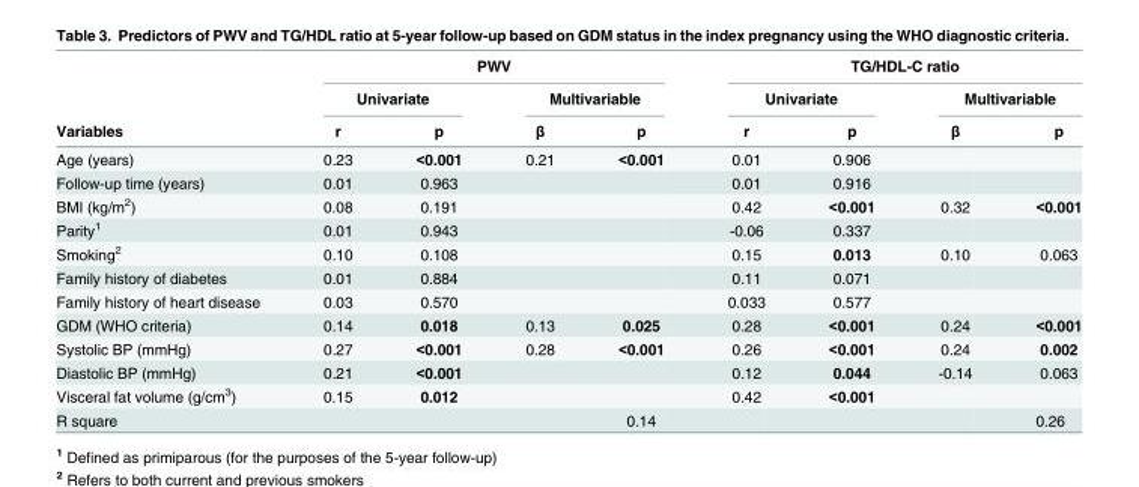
<table><thead><tr><td rowspan="3">Variables</td><td colspan="4">PWV</td><td colspan="4">TG/HDL-C ratio</td></tr><tr><td colspan="2">Univariate</td><td colspan="2">Multivariable</td><td colspan="2">Univariate</td><td colspan="2">Multivariable</td></tr><tr><td>r</td><td>p</td><td>β</td><td>p</td><td>r</td><td>p</td><td>β</td><td>p</td></tr></thead><tbody><tr><td>Age (years)</td><td>0.23</td><td>&lt;0.001</td><td>0.21</td><td>&lt;0.001</td><td>0.01</td><td>0.906</td><td></td><td></td></tr><tr><td>Follow-up time (years)</td><td>0.01</td><td>0.963</td><td></td><td></td><td>0.01</td><td>0.916</td><td></td><td></td></tr><tr><td>BMI (kg/m<sup>2</sup>)</td><td>0.08</td><td>0.191</td><td></td><td></td><td>0.42</td><td>&lt;0.001</td><td>0.32</td><td>&lt;0.001</td></tr><tr><td>Parity<sup>1</sup></td><td>0.01</td><td>0.943</td><td></td><td></td><td>-0.06</td><td>0.337</td><td></td><td></td></tr><tr><td>Smoking<sup>2</sup></td><td>0.10</td><td>0.108</td><td></td><td></td><td>0.15</td><td>0.013</td><td>0.10</td><td>0.063</td></tr><tr><td>Family history of diabetes</td><td>0.01</td><td>0.884</td><td></td><td></td><td>0.11</td><td>0.071</td><td></td><td></td></tr><tr><td>Family history of heart disease</td><td>0.03</td><td>0.570</td><td></td><td></td><td>0.033</td><td>0.577</td><td></td><td></td></tr><tr><td>GDM (WHO criteria)</td><td>0.14</td><td>0.018</td><td>0.13</td><td>0.025</td><td>0.28</td><td>&lt;0.001</td><td>0.24</td><td>&lt;0.001</td></tr><tr><td>Systolic BP (mmHg)</td><td>0.27</td><td>&lt;0.001</td><td>0.28</td><td>&lt;0.001</td><td>0.26</td><td>&lt;0.001</td><td>0.24</td><td>0.002</td></tr><tr><td>Diastolic BP (mmHg)</td><td>0.21</td><td>&lt;0.001</td><td></td><td></td><td>0.12</td><td>0.044</td><td>-0.14</td><td>0.063</td></tr><tr><td>Visceral fat volume (g/cm<sup>3</sup>)</td><td>0.15</td><td>0.012</td><td></td><td></td><td>0.42</td><td>&lt;0.001</td><td></td><td></td></tr><tr><td>R square</td><td></td><td></td><td></td><td>0.14</td><td></td><td></td><td></td><td>0.26</td></tr></tbody></table>